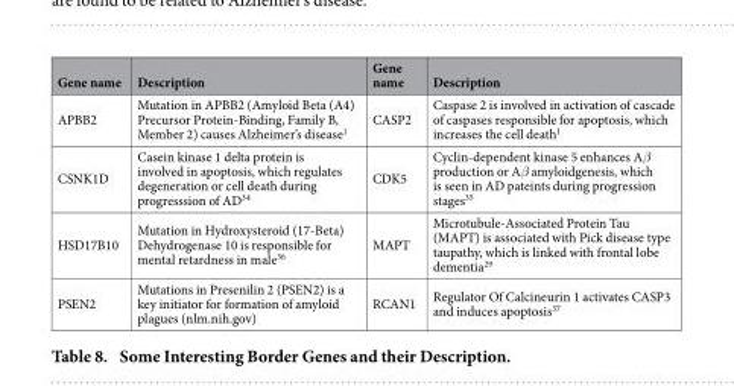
<table><thead><tr><td>Gene name</td><td>Description</td><td>Gene name</td><td>Description</td></tr></thead><tbody><tr><td>APBB2</td><td>Mutation in APBB2 (Amyloid Beta (A4) Precursor Protein-Binding, Family B, Member 2) causes Alzheimer’s disease<sup>1</sup></td><td>CASP2</td><td>Caspase 2 is involved in activation of cascade of caspases responsible for apoptosis, which increases the cell death<sup>1</sup></td></tr><tr><td>CSNK1D</td><td>Casein kinase 1 delta protein is involved in apoptosis, which regulates degeneration or cell death during progresssion of AD<sup>34</sup></td><td>CDK5</td><td>Cyclin-dependent kinase 5 enhances Aβ production or Aβ amyloidgenesis, which is seen in AD pateints during progression stages<sup>35</sup></td></tr><tr><td>HSD17B10</td><td>Mutation in Hydroxysteroid (17-Beta) Dehydrogenase 10 is responsible for mental retardness in male<sup>36</sup></td><td>MAPT</td><td>Microtubule-Associated Protein Tau (MAPT) is associated with Pick disease type taupathy, which is linked with frontal lobe dementia<sup>29</sup></td></tr><tr><td>PSEN2</td><td>Mutations in Presenilin 2 (PSEN2) is a key initiator for formation of amyloid plagues (nlm.nih.gov)</td><td>RCAN1</td><td>Regulator Of Calcineurin 1 activates CASP3 and induces apoptosis<sup>37</sup></td></tr></tbody></table>